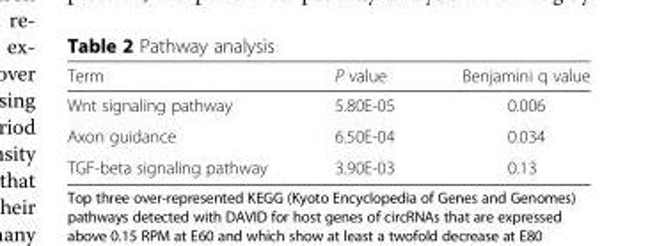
<table><thead><tr><td>Term</td><td>P value</td><td>Benjamini q value</td></tr></thead><tbody><tr><td>Wnt signaling pathway</td><td>5.80E-05</td><td>0.006</td></tr><tr><td>Axon guidance</td><td>6.50E-04</td><td>0.034</td></tr><tr><td>TGF-beta signaling pathway</td><td>3.90E-03</td><td>0.13</td></tr></tbody></table>